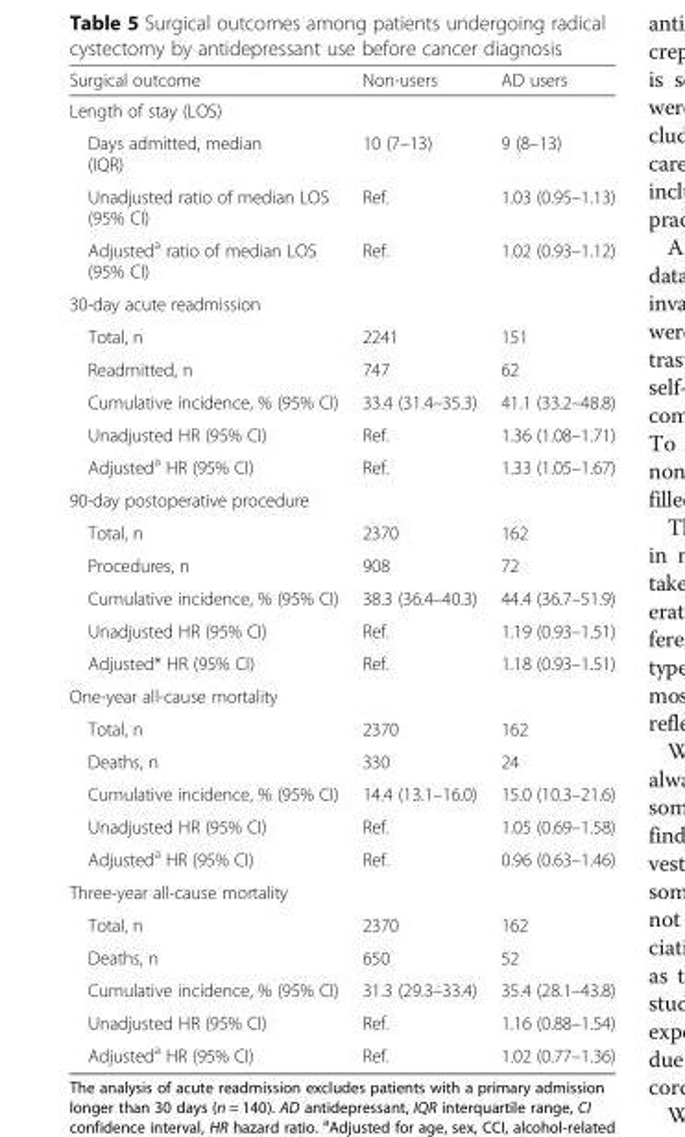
<table><thead><tr><td>Surgical outcome</td><td>Non-users</td><td>AD users</td></tr></thead><tbody><tr><td colspan="3">Length of stay (LOS)</td></tr><tr><td>Days admitted, median (IQR)</td><td>10 (7–13)</td><td>9 (8–13)</td></tr><tr><td>Unadjusted ratio of median LOS (95% CI)</td><td>Ref.</td><td>1.03 (0.95–1.13)</td></tr><tr><td>Adjusted<sup>a</sup> ratio of median LOS (95% CI)</td><td>Ref.</td><td>1.02 (0.93–1.12)</td></tr><tr><td colspan="3">30-day acute readmission</td></tr><tr><td>Total, n</td><td>2241</td><td>151</td></tr><tr><td>Readmitted, n</td><td>747</td><td>62</td></tr><tr><td>Cumulative incidence, % (95% CI)</td><td>33.4 (31.4–35.3)</td><td>41.1 (33.2–48.8)</td></tr><tr><td>Unadjusted HR (95% CI)</td><td>Ref.</td><td>1.36 (1.08–1.71)</td></tr><tr><td>Adjusted<sup>a</sup> HR (95% CI)</td><td>Ref.</td><td>1.33 (1.05–1.67)</td></tr><tr><td colspan="3">90-day postoperative procedure</td></tr><tr><td>Total, n</td><td>2370</td><td>162</td></tr><tr><td>Procedures, n</td><td>908</td><td>72</td></tr><tr><td>Cumulative incidence, % (95% CI)</td><td>38.3 (36.4–40.3)</td><td>44.4 (36.7–51.9)</td></tr><tr><td>Unadjusted HR (95% CI)</td><td>Ref.</td><td>1.19 (0.93–1.51)</td></tr><tr><td>Adjusted* HR (95% CI)</td><td>Ref.</td><td>1.18 (0.93–1.51)</td></tr><tr><td colspan="3">One-year all-cause mortality</td></tr><tr><td>Total, n</td><td>2370</td><td>162</td></tr><tr><td>Deaths, n</td><td>330</td><td>24</td></tr><tr><td>Cumulative incidence, % (95% CI)</td><td>14.4 (13.1–16.0)</td><td>15.0 (10.3–21.6)</td></tr><tr><td>Unadjusted HR (95% CI)</td><td>Ref.</td><td>1.05 (0.69–1.58)</td></tr><tr><td>Adjusted<sup>a</sup> HR (95% CI)</td><td>Ref.</td><td>0.96 (0.63–1.46)</td></tr><tr><td colspan="3">Three-year all-cause mortality</td></tr><tr><td>Total, n</td><td>2370</td><td>162</td></tr><tr><td>Deaths, n</td><td>650</td><td>52</td></tr><tr><td>Cumulative incidence, % (95% CI)</td><td>31.3 (29.3–33.4)</td><td>35.4 (28.1–43.8)</td></tr><tr><td>Unadjusted HR (95% CI)</td><td>Ref.</td><td>1.16 (0.88–1.54)</td></tr><tr><td>Adjusted<sup>a</sup> HR (95% CI)</td><td>Ref.</td><td>1.02 (0.77–1.36)</td></tr></tbody></table>